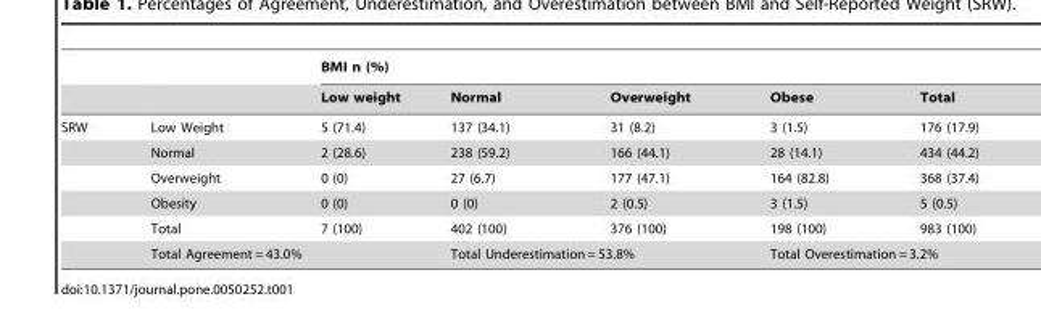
<table><thead><tr><td rowspan="2"></td><td rowspan="2"></td><td colspan="5">BMI n (%)</td></tr><tr><td>Low weight</td><td>Normal</td><td>Overweight</td><td>Obese</td><td>Total</td></tr></thead><tbody><tr><td rowspan="6">SRW</td><td>Low Weight</td><td>5 (71.4)</td><td>137 (34.1)</td><td>31 (8.2)</td><td>3 (1.5)</td><td>176 (17.9)</td></tr><tr><td>Normal</td><td>2 (28.6)</td><td>238 (59.2)</td><td>166 (44.1)</td><td>28 (14.1)</td><td>434 (44.2)</td></tr><tr><td>Overweight</td><td>0 (0)</td><td>27 (6.7)</td><td>177 (47.1)</td><td>164 (82.8)</td><td>368 (37.4)</td></tr><tr><td>Obesity</td><td>0 (0)</td><td>0 (0)</td><td>2 (0.5)</td><td>3 (1.5)</td><td>5 (0.5)</td></tr><tr><td>Total</td><td>7 (100)</td><td>402 (100)</td><td>376 (100)</td><td>198 (100)</td><td>983 (100)</td></tr><tr><td colspan="2">Total Agreement = 43.0%</td><td colspan="2">Total Underestimation = 53.8%</td><td colspan="2">Total Overestimation = 3.2%</td></tr></tbody></table>